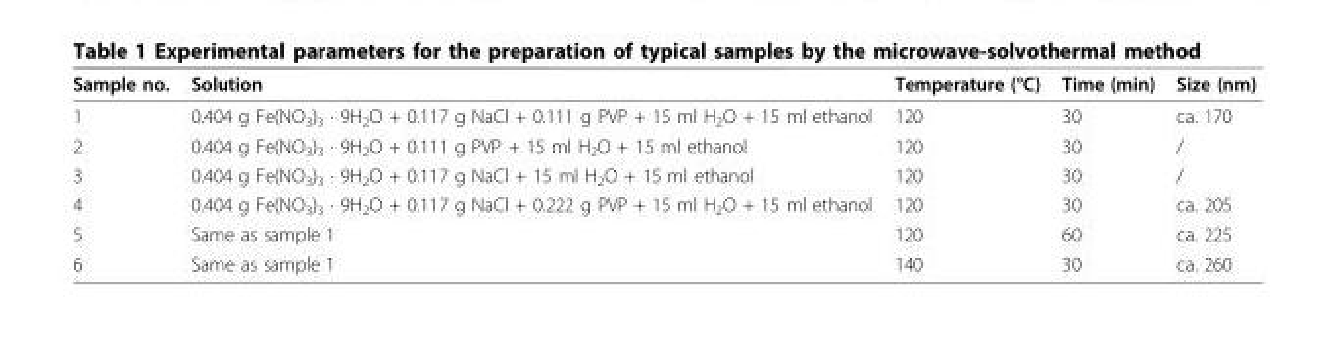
<table><thead><tr><td>Sample no.</td><td>Solution</td><td>Temperature (°C)</td><td>Time (min)</td><td>Size (nm)</td></tr></thead><tbody><tr><td>1</td><td>0.404 g Fe(NO<sub>3</sub>)<sub>3</sub> · 9H<sub>2</sub>O + 0.117 g NaCl + 0.111 g PVP + 15 ml H<sub>2</sub>O + 15 ml ethanol</td><td>120</td><td>30</td><td>ca. 170</td></tr><tr><td>2</td><td>0.404 g Fe(NO<sub>3</sub>)<sub>3</sub> · 9H<sub>2</sub>O + 0.111 g PVP + 15 ml H<sub>2</sub>O + 15 ml ethanol</td><td>120</td><td>30</td><td>/</td></tr><tr><td>3</td><td>0.404 g Fe(NO<sub>3</sub>)<sub>3</sub> · 9H<sub>2</sub>O + 0.117 g NaCl + 15 ml H<sub>2</sub>O + 15 ml ethanol</td><td>120</td><td>30</td><td>/</td></tr><tr><td>4</td><td>0.404 g Fe(NO<sub>3</sub>)<sub>3</sub> · 9H<sub>2</sub>O + 0.117 g NaCl + 0.222 g PVP + 15 ml H<sub>2</sub>O + 15 ml ethanol</td><td>120</td><td>30</td><td>ca. 205</td></tr><tr><td>5</td><td>Same as sample 1</td><td>120</td><td>60</td><td>ca. 225</td></tr><tr><td>6</td><td>Same as sample 1</td><td>140</td><td>30</td><td>ca. 260</td></tr></tbody></table>